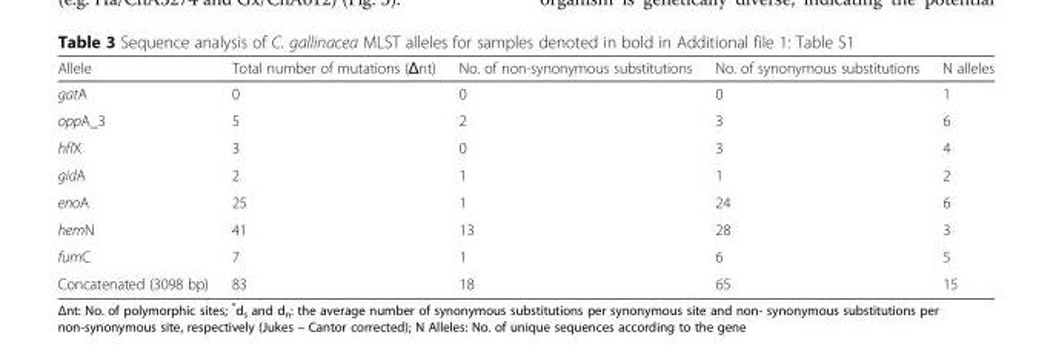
<table><thead><tr><td>Allele</td><td>Total number of mutations (Δnt)</td><td>No. of non-synonymous substitutions</td><td>No. of synonymous substitutions</td><td>N alleles</td></tr></thead><tbody><tr><td>gatA</td><td>0</td><td>0</td><td>0</td><td>1</td></tr><tr><td>oppA_3</td><td>5</td><td>2</td><td>3</td><td>6</td></tr><tr><td>hflX</td><td>3</td><td>0</td><td>3</td><td>4</td></tr><tr><td>gidA</td><td>2</td><td>1</td><td>1</td><td>2</td></tr><tr><td>enoA</td><td>25</td><td>1</td><td>24</td><td>6</td></tr><tr><td>hemN</td><td>41</td><td>13</td><td>28</td><td>3</td></tr><tr><td>fumC</td><td>7</td><td>1</td><td>6</td><td>5</td></tr><tr><td>Concatenated (3098 bp)</td><td>83</td><td>18</td><td>65</td><td>15</td></tr></tbody></table>